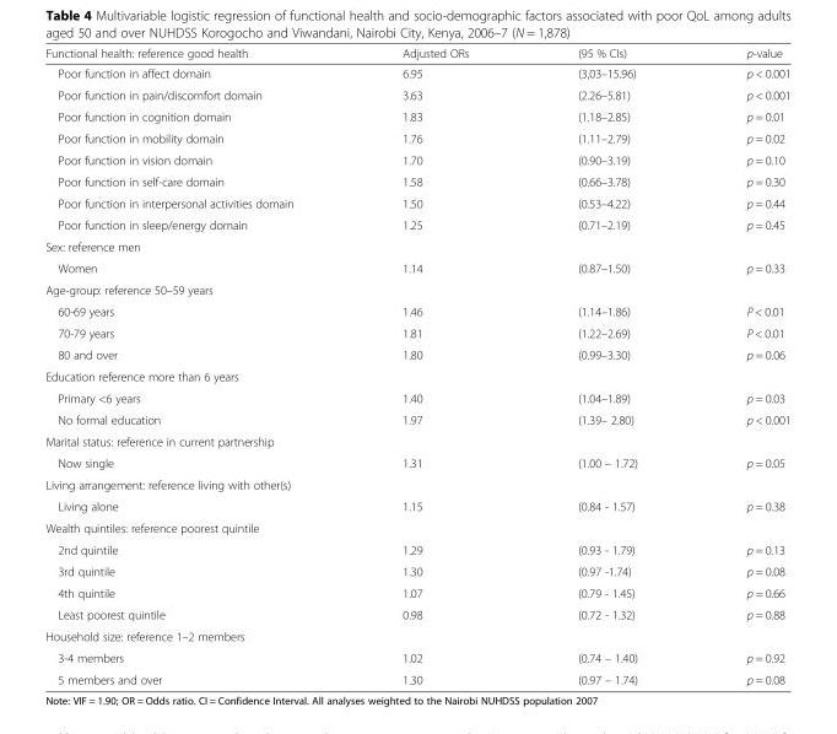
<table><thead><tr><td>Functional health: reference good health</td><td>Adjusted ORs</td><td>(95 % CIs)</td><td>p-value</td></tr></thead><tbody><tr><td>Poor function in affect domain</td><td>6.95</td><td>(3,03–15.96)</td><td>p &lt; 0.001</td></tr><tr><td>Poor function in pain/discomfort domain</td><td>3.63</td><td>(2.26–5.81)</td><td>p &lt; 0.001</td></tr><tr><td>Poor function in cognition domain</td><td>1.83</td><td>(1.18–2.85)</td><td>p = 0.01</td></tr><tr><td>Poor function in mobility domain</td><td>1.76</td><td>(1.11–2.79)</td><td>p = 0.02</td></tr><tr><td>Poor function in vision domain</td><td>1.70</td><td>(0.90–3.19)</td><td>p = 0.10</td></tr><tr><td>Poor function in self-care domain</td><td>1.58</td><td>(0.66–3.78)</td><td>p = 0.30</td></tr><tr><td>Poor function in interpersonal activities domain</td><td>1.50</td><td>(0.53–4.22)</td><td>p = 0.44</td></tr><tr><td>Poor function in sleep/energy domain</td><td>1.25</td><td>(0.71–2.19)</td><td>p = 0.45</td></tr><tr><td colspan="4">Sex: reference men</td></tr><tr><td>Women</td><td>1.14</td><td>(0.87–1.50)</td><td>p = 0.33</td></tr><tr><td colspan="4">Age-group: reference 50–59 years</td></tr><tr><td>60-69 years</td><td>1.46</td><td>(1.14–1.86)</td><td>P &lt; 0.01</td></tr><tr><td>70-79 years</td><td>1.81</td><td>(1.22–2.69)</td><td>P &lt; 0.01</td></tr><tr><td>80 and over</td><td>1.80</td><td>(0.99–3.30)</td><td>p = 0.06</td></tr><tr><td colspan="4">Education reference more than 6 years</td></tr><tr><td>Primary &lt;6 years</td><td>1.40</td><td>(1.04–1.89)</td><td>p = 0.03</td></tr><tr><td>No formal education</td><td>1.97</td><td>(1.39– 2.80)</td><td>p &lt; 0.001</td></tr><tr><td colspan="4">Marital status: reference in current partnership</td></tr><tr><td>Now single</td><td>1.31</td><td>(1.00 – 1.72)</td><td>p = 0.05</td></tr><tr><td colspan="4">Living arrangement: reference living with other(s)</td></tr><tr><td>Living alone</td><td>1.15</td><td>(0.84 - 1.57)</td><td>p = 0.38</td></tr><tr><td colspan="4">Wealth quintiles: reference poorest quintile</td></tr><tr><td>2nd quintile</td><td>1.29</td><td>(0.93 - 1.79)</td><td>p = 0.13</td></tr><tr><td>3rd quintile</td><td>1.30</td><td>(0.97 -1.74)</td><td>p = 0.08</td></tr><tr><td>4th quintile</td><td>1.07</td><td>(0.79 - 1.45)</td><td>p = 0.66</td></tr><tr><td>Least poorest quintile</td><td>0.98</td><td>(0.72 - 1.32)</td><td>p = 0.88</td></tr><tr><td colspan="4">Household size: reference 1–2 members</td></tr><tr><td>3-4 members</td><td>1.02</td><td>(0.74 – 1.40)</td><td>p = 0.92</td></tr><tr><td>5 members and over</td><td>1.30</td><td>(0.97 – 1.74)</td><td>p = 0.08</td></tr></tbody></table>